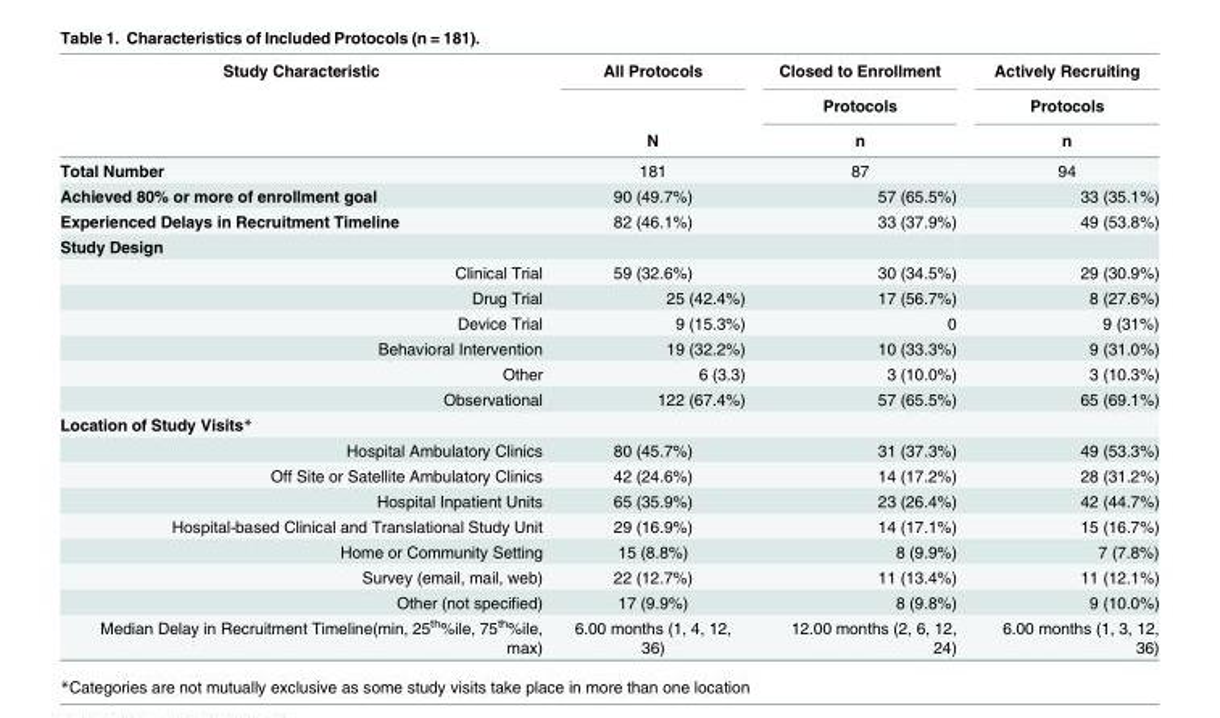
<table><thead><tr><td rowspan="3">Study Characteristic</td><td rowspan="3">All Protocols N</td><td rowspan="3">Closed to Enrollment Protocols n</td><td rowspan="3">Actively Recruiting Protocols n</td></tr><tr></tr><tr></tr></thead><tbody><tr><td>Total Number</td><td>181</td><td>87</td><td>94</td></tr><tr><td>Achieved 80% or more of enrollment goal</td><td>90 (49.7%)</td><td>57 (65.5%)</td><td>33 (35.1%)</td></tr><tr><td>Experienced Delays in Recruitment Timeline</td><td>82 (46.1%)</td><td>33 (37.9%)</td><td>49 (53.8%)</td></tr><tr><td colspan="4">Study Design</td></tr><tr><td>Clinical Trial</td><td>59 (32.6%)</td><td>30 (34.5%)</td><td>29 (30.9%)</td></tr><tr><td>Drug Trial</td><td>25 (42.4%)</td><td>17 (56.7%)</td><td>8 (27.6%)</td></tr><tr><td>Device Trial</td><td>9 (15.3%)</td><td>0</td><td>9 (31%)</td></tr><tr><td>Behavioral Intervention</td><td>19 (32.2%)</td><td>10 (33.3%)</td><td>9 (31.0%)</td></tr><tr><td>Other</td><td>6 (3.3)</td><td>3 (10.0%)</td><td>3 (10.3%)</td></tr><tr><td>Observational</td><td>122 (67.4%)</td><td>57 (65.5%)</td><td>65 (69.1%)</td></tr><tr><td colspan="4">Location of Study Visits*</td></tr><tr><td>Hospital Ambulatory Clinics</td><td>80 (45.7%)</td><td>31 (37.3%)</td><td>49 (53.3%)</td></tr><tr><td>Off Site or Satellite Ambulatory Clinics</td><td>42 (24.6%)</td><td>14 (17.2%)</td><td>28 (31.2%)</td></tr><tr><td>Hospital Inpatient Units</td><td>65 (35.9%)</td><td>23 (26.4%)</td><td>42 (44.7%)</td></tr><tr><td>Hospital-based Clinical and Translational Study Unit</td><td>29 (16.9%)</td><td>14 (17.1%)</td><td>15 (16.7%)</td></tr><tr><td>Home or Community Setting</td><td>15 (8.8%)</td><td>8 (9.9%)</td><td>7 (7.8%)</td></tr><tr><td>Survey (email, mail, web)</td><td>22 (12.7%)</td><td>11 (13.4%)</td><td>11 (12.1%)</td></tr><tr><td>Other (not specified)</td><td>17 (9.9%)</td><td>8 (9.8%)</td><td>9 (10.0%)</td></tr><tr><td>Median Delay in Recruitment Timeline(min, 25<sup>th</sup>%ile, 75<sup>th</sup>%ile, max)</td><td>6.00 months (1, 4, 12, 36)</td><td>12.00 months (2, 6, 12, 24)</td><td>6.00 months (1, 3, 12, 36)</td></tr></tbody></table>